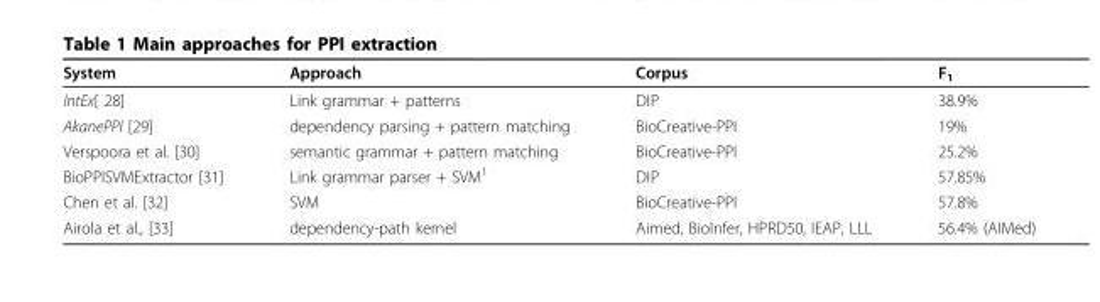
<table><thead><tr><td>System</td><td>Approach</td><td>Corpus</td><td>F<sub>1</sub></td></tr></thead><tbody><tr><td>IntEx[ 28]</td><td>Link grammar + patterns</td><td>DIP</td><td>38.9%</td></tr><tr><td>AkanePPI [29]</td><td>dependency parsing + pattern matching</td><td>BioCreative-PPI</td><td>19%</td></tr><tr><td>Verspoora et al. [30]</td><td>semantic grammar + pattern matching</td><td>BioCreative-PPI</td><td>25.2%</td></tr><tr><td>BioPPISVMExtractor [31]</td><td>Link grammar parser + SVM<sup>1</sup></td><td>DIP</td><td>57.85%</td></tr><tr><td>Chen et al. [32]</td><td>SVM</td><td>BioCreative-PPI</td><td>57.8%</td></tr><tr><td>Airola et al., [33]</td><td>dependency-path kernel</td><td>Aimed, BioInfer, HPRD50, IEAP, LLL</td><td>56.4% (AIMed)</td></tr></tbody></table>